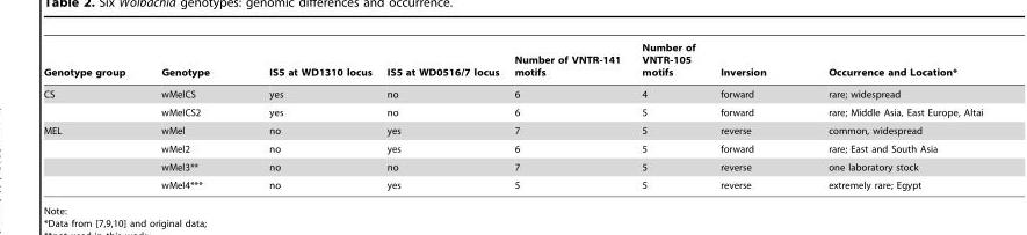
<table><thead><tr><td>Genotype group</td><td>Genotype</td><td>IS5 at WD1310 locus</td><td>IS5 at WD0516/7 locus</td><td>Number of VNTR-141 motifs</td><td>Number of VNTR-105 motifs</td><td>Inversion</td><td>Occurrence and Location*</td></tr></thead><tbody><tr><td rowspan="2">CS</td><td>wMelCS</td><td>yes</td><td>no</td><td>6</td><td>4</td><td>forward</td><td>rare; widespread</td></tr><tr><td>wMelCS2</td><td>yes</td><td>no</td><td>6</td><td>5</td><td>forward</td><td>rare; Middle Asia, East Europe, Altai</td></tr><tr><td rowspan="4">MEL</td><td>wMel</td><td>no</td><td>yes</td><td>7</td><td>5</td><td>reverse</td><td>common, widespread</td></tr><tr><td>wMel2</td><td>no</td><td>yes</td><td>6</td><td>5</td><td>forward</td><td>rare; East and South Asia</td></tr><tr><td>wMel3**</td><td>no</td><td>no</td><td>7</td><td>5</td><td>reverse</td><td>one laboratory stock</td></tr><tr><td>wMel4***</td><td>no</td><td>yes</td><td>5</td><td>5</td><td>reverse</td><td>extremely rare; Egypt</td></tr></tbody></table>